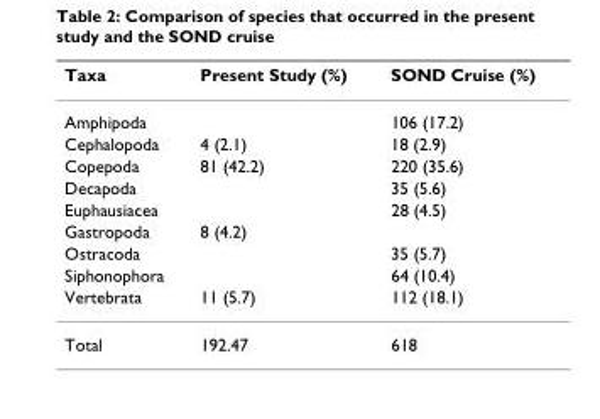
<table><thead><tr><td>Taxa</td><td>Present Study (%)</td><td>SOND Cruise (%)</td></tr></thead><tbody><tr><td>Amphipoda</td><td></td><td>106 (17.2)</td></tr><tr><td>Cephalopoda</td><td>4 (2.1)</td><td>18 (2.9)</td></tr><tr><td>Copepoda</td><td>81 (42.2)</td><td>220 (35.6)</td></tr><tr><td>Decapoda</td><td></td><td>35 (5.6)</td></tr><tr><td>Euphausiacea</td><td></td><td>28 (4.5)</td></tr><tr><td>Gastropoda</td><td>8 (4.2)</td><td></td></tr><tr><td>Ostracoda</td><td></td><td>35 (5.7)</td></tr><tr><td>Siphonophora</td><td></td><td>64 (10.4)</td></tr><tr><td>Vertebrata</td><td>11 (5.7)</td><td>112 (18.1)</td></tr><tr><td>Total</td><td>192.47</td><td>618</td></tr></tbody></table>